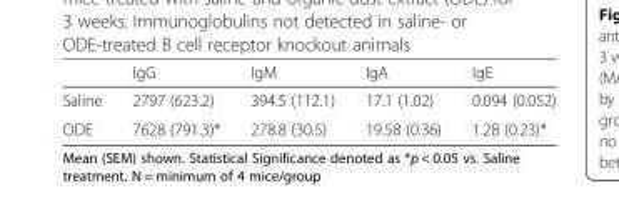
<table><thead><tr><td></td><td>IgG</td><td>IgM</td><td>IgA</td><td>IgE</td></tr></thead><tbody><tr><td>Saline</td><td>2797 (623.2)</td><td>394.5 (112.1)</td><td>17.1 (1.02)</td><td>0.094 (0.052)</td></tr><tr><td>ODE</td><td>7628 (791.3)*</td><td>278.8 (30.5)</td><td>19.58 (0.36)</td><td>1.28 (0.23)*</td></tr></tbody></table>